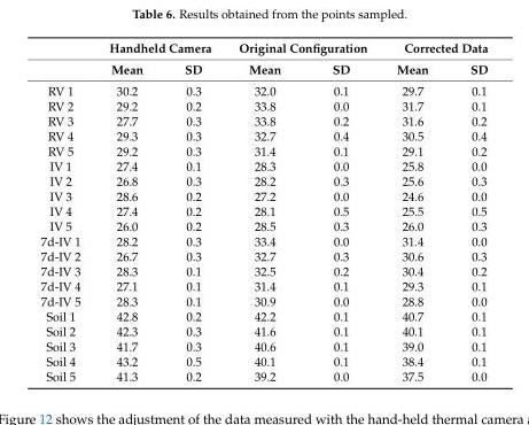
<table><thead><tr><td rowspan="2"></td><td colspan="2">Handheld Camera</td><td colspan="2">Original Configuration</td><td colspan="2">Corrected Data</td></tr><tr><td>Mean</td><td>SD</td><td>Mean</td><td>SD</td><td>Mean</td><td>SD</td></tr></thead><tbody><tr><td>RV 1</td><td>30.2</td><td>0.3</td><td>32.0</td><td>0.1</td><td>29.7</td><td>0.1</td></tr><tr><td>RV 2</td><td>29.2</td><td>0.2</td><td>33.8</td><td>0.0</td><td>31.7</td><td>0.1</td></tr><tr><td>RV 3</td><td>27.7</td><td>0.3</td><td>33.8</td><td>0.2</td><td>31.6</td><td>0.2</td></tr><tr><td>RV 4</td><td>29.3</td><td>0.3</td><td>32.7</td><td>0.4</td><td>30.5</td><td>0.4</td></tr><tr><td>RV 5</td><td>29.2</td><td>0.3</td><td>31.4</td><td>0.1</td><td>29.1</td><td>0.2</td></tr><tr><td>IV 1</td><td>27.4</td><td>0.1</td><td>28.3</td><td>0.0</td><td>25.8</td><td>0.0</td></tr><tr><td>IV 2</td><td>26.8</td><td>0.3</td><td>28.2</td><td>0.3</td><td>25.6</td><td>0.3</td></tr><tr><td>IV 3</td><td>28.6</td><td>0.2</td><td>27.2</td><td>0.0</td><td>24.6</td><td>0.0</td></tr><tr><td>IV 4</td><td>27.4</td><td>0.2</td><td>28.1</td><td>0.5</td><td>25.5</td><td>0.5</td></tr><tr><td>IV 5</td><td>26.0</td><td>0.2</td><td>28.5</td><td>0.3</td><td>26.0</td><td>0.3</td></tr><tr><td>7d-IV 1</td><td>28.2</td><td>0.3</td><td>33.4</td><td>0.0</td><td>31.4</td><td>0.0</td></tr><tr><td>7d-IV 2</td><td>26.7</td><td>0.3</td><td>32.7</td><td>0.3</td><td>30.6</td><td>0.3</td></tr><tr><td>7d-IV 3</td><td>28.3</td><td>0.1</td><td>32.5</td><td>0.2</td><td>30.4</td><td>0.2</td></tr><tr><td>7d-IV 4</td><td>27.1</td><td>0.1</td><td>31.4</td><td>0.1</td><td>29.3</td><td>0.1</td></tr><tr><td>7d-IV 5</td><td>28.3</td><td>0.1</td><td>30.9</td><td>0.0</td><td>28.8</td><td>0.0</td></tr><tr><td>Soil 1</td><td>42.8</td><td>0.2</td><td>42.2</td><td>0.1</td><td>40.7</td><td>0.1</td></tr><tr><td>Soil 2</td><td>42.3</td><td>0.3</td><td>41.6</td><td>0.1</td><td>40.1</td><td>0.1</td></tr><tr><td>Soil 3</td><td>41.7</td><td>0.3</td><td>40.6</td><td>0.1</td><td>39.0</td><td>0.1</td></tr><tr><td>Soil 4</td><td>43.2</td><td>0.5</td><td>40.1</td><td>0.1</td><td>38.4</td><td>0.1</td></tr><tr><td>Soil 5</td><td>41.3</td><td>0.2</td><td>39.2</td><td>0.0</td><td>37.5</td><td>0.0</td></tr></tbody></table>